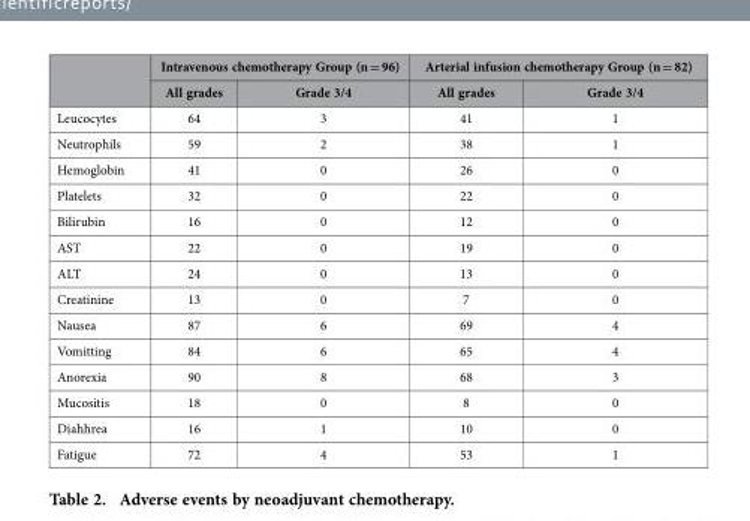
<table><thead><tr><td rowspan="2"></td><td colspan="2">Intravenous chemotherapy Group (n = 96)</td><td colspan="2">Arterial infusion chemotherapy Group (n = 82)</td></tr><tr><td>All grades</td><td>Grade 3/4</td><td>All grades</td><td>Grade 3/4</td></tr></thead><tbody><tr><td>Leucocytes</td><td>64</td><td>3</td><td>41</td><td>1</td></tr><tr><td>Neutrophils</td><td>59</td><td>2</td><td>38</td><td>1</td></tr><tr><td>Hemoglobin</td><td>41</td><td>0</td><td>26</td><td>0</td></tr><tr><td>Platelets</td><td>32</td><td>0</td><td>22</td><td>0</td></tr><tr><td>Bilirubin</td><td>16</td><td>0</td><td>12</td><td>0</td></tr><tr><td>AST</td><td>22</td><td>0</td><td>19</td><td>0</td></tr><tr><td>ALT</td><td>24</td><td>0</td><td>13</td><td>0</td></tr><tr><td>Creatinine</td><td>13</td><td>0</td><td>7</td><td>0</td></tr><tr><td>Nausea</td><td>87</td><td>6</td><td>69</td><td>4</td></tr><tr><td>Vomitting</td><td>84</td><td>6</td><td>65</td><td>4</td></tr><tr><td>Anorexia</td><td>90</td><td>8</td><td>68</td><td>3</td></tr><tr><td>Mucositis</td><td>18</td><td>0</td><td>8</td><td>0</td></tr><tr><td>Diahhrea</td><td>16</td><td>1</td><td>10</td><td>0</td></tr><tr><td>Fatigue</td><td>72</td><td>4</td><td>53</td><td>1</td></tr></tbody></table>